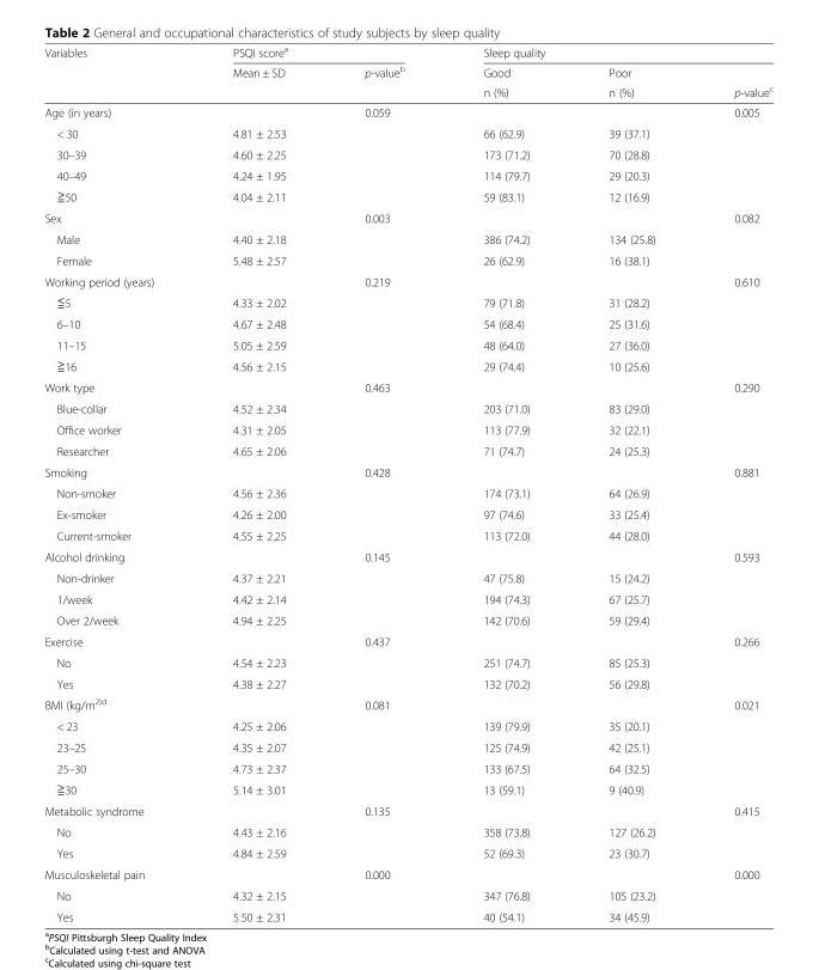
<table><thead><tr><td rowspan="3">Variables</td><td colspan="2">PSQI score<sup>a</sup></td><td colspan="3">Sleep quality</td></tr><tr><td rowspan="2">Mean ± SD</td><td rowspan="2">p-value<sup>b</sup></td><td rowspan="2">Good n (%)</td><td rowspan="2">Poor n (%)</td><td rowspan="2">p-value<sup>c</sup></td></tr><tr></tr></thead><tbody><tr><td>Age (in years)</td><td></td><td>0.059</td><td colspan="2"></td><td>0.005</td></tr><tr><td>&lt; 30</td><td>4.81 ± 2.53</td><td></td><td>66 (62.9)</td><td>39 (37.1)</td><td></td></tr><tr><td>30–39</td><td>4.60 ± 2.25</td><td></td><td>173 (71.2)</td><td>70 (28.8)</td><td></td></tr><tr><td>40–49</td><td>4.24 ± 1.95</td><td></td><td>114 (79.7)</td><td>29 (20.3)</td><td></td></tr><tr><td>≧50</td><td>4.04 ± 2.11</td><td></td><td>59 (83.1)</td><td>12 (16.9)</td><td></td></tr><tr><td>Sex</td><td></td><td>0.003</td><td colspan="2"></td><td>0.082</td></tr><tr><td>Male</td><td>4.40 ± 2.18</td><td></td><td>386 (74.2)</td><td>134 (25.8)</td><td></td></tr><tr><td>Female</td><td>5.48 ± 2.57</td><td></td><td>26 (62.9)</td><td>16 (38.1)</td><td></td></tr><tr><td>Working period (years)</td><td></td><td>0.219</td><td colspan="2"></td><td>0.610</td></tr><tr><td>≦5</td><td>4.33 ± 2.02</td><td></td><td>79 (71.8)</td><td>31 (28.2)</td><td></td></tr><tr><td>6–10</td><td>4.67 ± 2.48</td><td></td><td>54 (68.4)</td><td>25 (31.6)</td><td></td></tr><tr><td>11–15</td><td>5.05 ± 2.59</td><td></td><td>48 (64.0)</td><td>27 (36.0)</td><td></td></tr><tr><td>≧16</td><td>4.56 ± 2.15</td><td></td><td>29 (74.4)</td><td>10 (25.6)</td><td></td></tr><tr><td>Work type</td><td></td><td>0.463</td><td colspan="2"></td><td>0.290</td></tr><tr><td>Blue-collar</td><td>4.52 ± 2.34</td><td></td><td>203 (71.0)</td><td>83 (29.0)</td><td></td></tr><tr><td>Office worker</td><td>4.31 ± 2.05</td><td></td><td>113 (77.9)</td><td>32 (22.1)</td><td></td></tr><tr><td>Researcher</td><td>4.65 ± 2.06</td><td></td><td>71 (74.7)</td><td>24 (25.3)</td><td></td></tr><tr><td>Smoking</td><td></td><td>0.428</td><td colspan="2"></td><td>0.881</td></tr><tr><td>Non-smoker</td><td>4.56 ± 2.36</td><td></td><td>174 (73.1)</td><td>64 (26.9)</td><td></td></tr><tr><td>Ex-smoker</td><td>4.26 ± 2.00</td><td></td><td>97 (74.6)</td><td>33 (25.4)</td><td></td></tr><tr><td>Current-smoker</td><td>4.55 ± 2.25</td><td></td><td>113 (72.0)</td><td>44 (28.0)</td><td></td></tr><tr><td>Alcohol drinking</td><td></td><td>0.145</td><td colspan="2"></td><td>0.593</td></tr><tr><td>Non-drinker</td><td>4.37 ± 2.21</td><td></td><td>47 (75.8)</td><td>15 (24.2)</td><td></td></tr><tr><td>1/week</td><td>4.42 ± 2.14</td><td></td><td>194 (74.3)</td><td>67 (25.7)</td><td></td></tr><tr><td>Over 2/week</td><td>4.94 ± 2.25</td><td></td><td>142 (70.6)</td><td>59 (29.4)</td><td></td></tr><tr><td>Exercise</td><td></td><td>0.437</td><td colspan="2"></td><td>0.266</td></tr><tr><td>No</td><td>4.54 ± 2.23</td><td></td><td>251 (74.7)</td><td>85 (25.3)</td><td></td></tr><tr><td>Yes</td><td>4.38 ± 2.27</td><td></td><td>132 (70.2)</td><td>56 (29.8)</td><td></td></tr><tr><td>BMI (kg/m<sup>2)d</sup></td><td></td><td>0.081</td><td colspan="2"></td><td>0.021</td></tr><tr><td>&lt; 23</td><td>4.25 ± 2.06</td><td></td><td>139 (79.9)</td><td>35 (20.1)</td><td></td></tr><tr><td>23–25</td><td>4.35 ± 2.07</td><td></td><td>125 (74.9)</td><td>42 (25.1)</td><td></td></tr><tr><td>25–30</td><td>4.73 ± 2.37</td><td></td><td>133 (67.5)</td><td>64 (32.5)</td><td></td></tr><tr><td>≧30</td><td>5.14 ± 3.01</td><td></td><td>13 (59.1)</td><td>9 (40.9)</td><td></td></tr><tr><td>Metabolic syndrome</td><td></td><td>0.135</td><td colspan="2"></td><td>0.415</td></tr><tr><td>No</td><td>4.43 ± 2.16</td><td></td><td>358 (73.8)</td><td>127 (26.2)</td><td></td></tr><tr><td>Yes</td><td>4.84 ± 2.59</td><td></td><td>52 (69.3)</td><td>23 (30.7)</td><td></td></tr><tr><td>Musculoskeletal pain</td><td></td><td>0.000</td><td colspan="2"></td><td>0.000</td></tr><tr><td>No</td><td>4.32 ± 2.15</td><td></td><td>347 (76.8)</td><td>105 (23.2)</td><td></td></tr><tr><td>Yes</td><td>5.50 ± 2.31</td><td></td><td>40 (54.1)</td><td>34 (45.9)</td><td></td></tr></tbody></table>